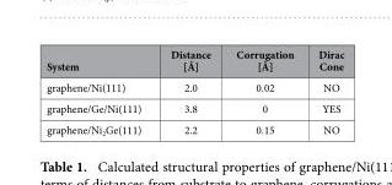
<table><thead><tr><td>System</td><td>Distance [Å]</td><td>Corrugation [Å]</td><td>Dirac Cone</td></tr></thead><tbody><tr><td>graphene/Ni(111)</td><td>2.0</td><td>0.02</td><td>NO</td></tr><tr><td>graphene/Ge/Ni(111)</td><td>3.8</td><td>0</td><td>YES</td></tr><tr><td>graphene/Ni<sub>2</sub>Ge(111)</td><td>2.2</td><td>0.15</td><td>NO</td></tr></tbody></table>